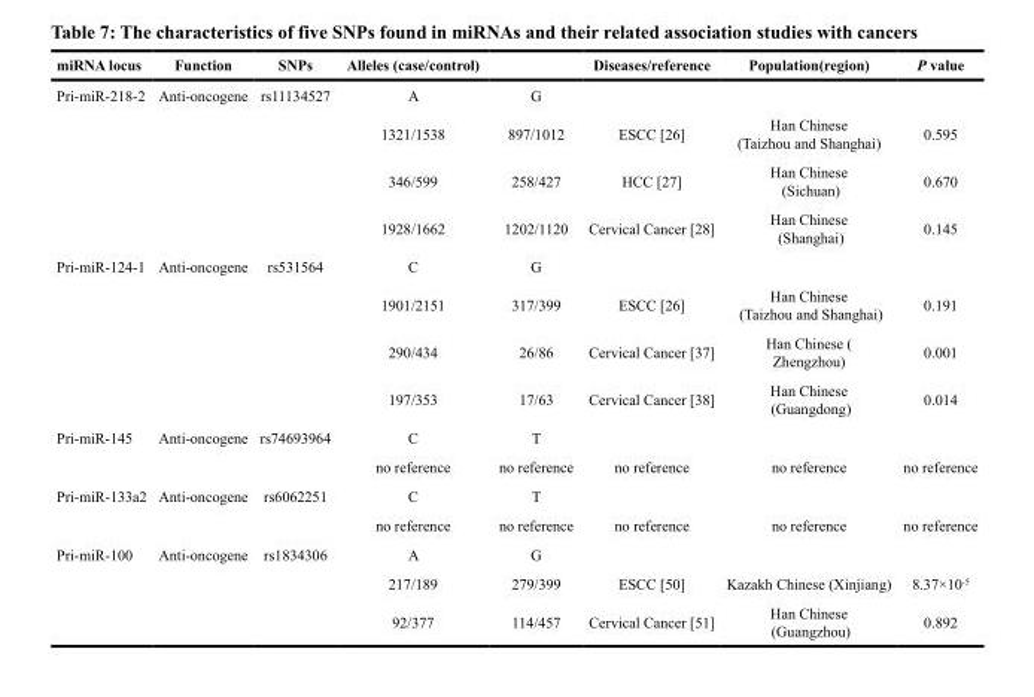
<table><thead><tr><td>miRNA locus</td><td>Function</td><td>SNPs</td><td>Alleles (case/control)</td><td></td><td>Diseases/reference</td><td>Population(region)</td><td>P value</td></tr></thead><tbody><tr><td rowspan="4">Pri-miR-218-2</td><td>Anti-oncogene</td><td>rs11134527</td><td>A</td><td>G</td><td></td><td></td><td></td></tr><tr><td></td><td></td><td>1321/1538</td><td>897/1012</td><td>ESCC [26]</td><td>Han Chinese (Taizhou and Shanghai)</td><td>0.595</td></tr><tr><td></td><td></td><td>346/599</td><td>258/427</td><td>HCC [27]</td><td>Han Chinese (Sichuan)</td><td>0.670</td></tr><tr><td></td><td></td><td>1928/1662</td><td>1202/1120</td><td>Cervical Cancer [28]</td><td>Han Chinese (Shanghai)</td><td>0.145</td></tr><tr><td rowspan="4">Pri-miR-124-1</td><td>Anti-oncogene</td><td>rs531564</td><td>C</td><td>G</td><td></td><td></td><td></td></tr><tr><td></td><td></td><td>1901/2151</td><td>317/399</td><td>ESCC [26]</td><td>Han Chinese (Taizhou and Shanghai)</td><td>0.191</td></tr><tr><td></td><td></td><td>290/434</td><td>26/86</td><td>Cervical Cancer [37]</td><td>Han Chinese ( Zhengzhou)</td><td>0.001</td></tr><tr><td></td><td></td><td>197/353</td><td>17/63</td><td>Cervical Cancer [38]</td><td>Han Chinese (Guangdong)</td><td>0.014</td></tr><tr><td rowspan="2">Pri-miR-145</td><td>Anti-oncogene</td><td>rs74693964</td><td>C</td><td>T</td><td></td><td></td><td></td></tr><tr><td></td><td></td><td>no reference</td><td>no reference</td><td>no reference</td><td>no reference</td><td>no reference</td></tr><tr><td rowspan="2">Pri-miR-133a2</td><td>Anti-oncogene</td><td>rs6062251</td><td>C</td><td>T</td><td></td><td></td><td></td></tr><tr><td></td><td></td><td>no reference</td><td>no reference</td><td>no reference</td><td>no reference</td><td>no reference</td></tr><tr><td rowspan="3">Pri-miR-100</td><td>Anti-oncogene</td><td>rs1834306</td><td>A</td><td>G</td><td></td><td></td><td></td></tr><tr><td></td><td></td><td>217/189</td><td>279/399</td><td>ESCC [50]</td><td>Kazakh Chinese (Xinjiang)</td><td>8.37×10<sup>-5</sup></td></tr><tr><td></td><td></td><td>92/377</td><td>114/457</td><td>Cervical Cancer [51]</td><td>Han Chinese (Guangzhou)</td><td>0.892</td></tr></tbody></table>